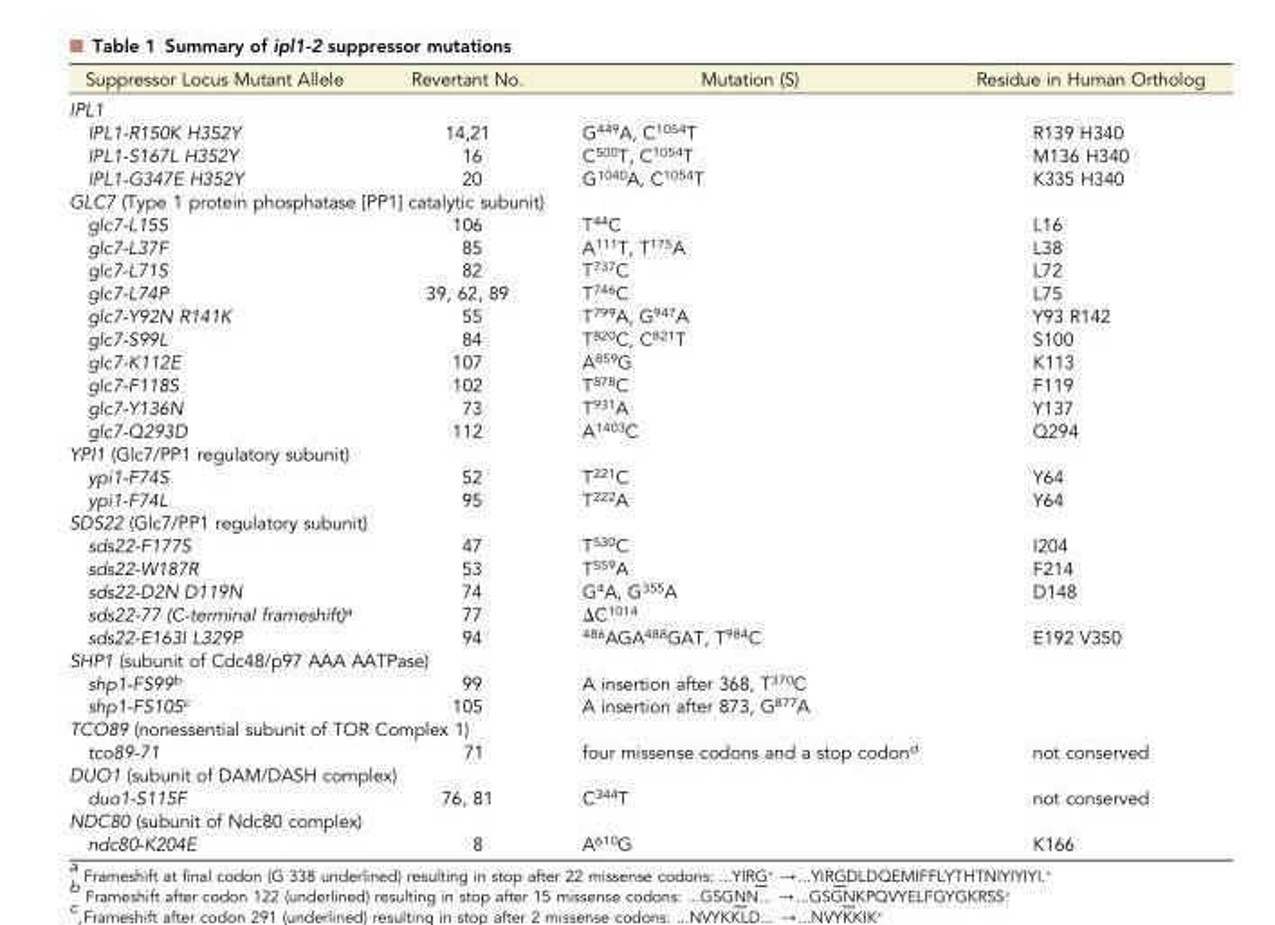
<table><thead><tr><td>Suppressor Locus Mutant Allele</td><td>Revertant No.</td><td>Mutation (S)</td><td>Residue in Human Ortholog</td></tr></thead><tbody><tr><td colspan="4">IPL1</td></tr><tr><td>IPL1-R150K H352Y</td><td>14,21</td><td>G<sup>449</sup>A, C<sup>1054</sup>T</td><td>R139 H340</td></tr><tr><td>IPL1-S167L H352Y</td><td>16</td><td>C<sup>500</sup>T, C<sup>1054</sup>T</td><td>M136 H340</td></tr><tr><td>IPL1-G347E H352Y</td><td>20</td><td>G<sup>1040</sup>A, C<sup>1054</sup>T</td><td>K335 H340</td></tr><tr><td colspan="4">GLC7 (Type 1 protein phosphatase [PP1] catalytic subunit)</td></tr><tr><td>glc7-L15S</td><td>106</td><td>T<sup>44</sup>C</td><td>L16</td></tr><tr><td>glc7-L37F</td><td>85</td><td>A<sup>111</sup>T, T<sup>175</sup>A</td><td>L38</td></tr><tr><td>glc7-L71S</td><td>82</td><td>T<sup>737</sup>C</td><td>L72</td></tr><tr><td>glc7-L74P</td><td>39, 62, 89</td><td>T<sup>746</sup>C</td><td>L75</td></tr><tr><td>glc7-Y92N R141K</td><td>55</td><td>T<sup>799</sup>A, G<sup>947</sup>A</td><td>Y93 R142</td></tr><tr><td>glc7-S99L</td><td>84</td><td>T<sup>820</sup>C, C<sup>821</sup>T</td><td>S100</td></tr><tr><td>glc7-K112E</td><td>107</td><td>A<sup>859</sup>G</td><td>K113</td></tr><tr><td>glc7-F118S</td><td>102</td><td>T<sup>878</sup>C</td><td>F119</td></tr><tr><td>glc7-Y136N</td><td>73</td><td>T<sup>931</sup>A</td><td>Y137</td></tr><tr><td>glc7-Q293D</td><td>112</td><td>A<sup>1403</sup>C</td><td>Q294</td></tr><tr><td colspan="4">YPI1 (Glc7/PP1 regulatory subunit)</td></tr><tr><td>ypi1-F74S</td><td>52</td><td>T<sup>221</sup>C</td><td>Y64</td></tr><tr><td>ypi1-F74L</td><td>95</td><td>T<sup>222</sup>A</td><td>Y64</td></tr><tr><td colspan="4">SDS22 (Glc7/PP1 regulatory subunit)</td></tr><tr><td>sds22-F177S</td><td>47</td><td>T<sup>530</sup>C</td><td>I204</td></tr><tr><td>sds22-W187R</td><td>53</td><td>T<sup>559</sup>A</td><td>F214</td></tr><tr><td>sds22-D2N D119N</td><td>74</td><td>G<sup>4</sup>A, G<sup>355</sup>A</td><td>D148</td></tr><tr><td>sds22-77 (C-terminal frameshift)<sup>a</sup></td><td>77</td><td>ΔC<sup>1014</sup></td><td></td></tr><tr><td>sds22-E163I L329P</td><td>94</td><td><sup>486</sup>AGA<sup>488</sup>GAT, T<sup>984</sup>C</td><td>E192 V350</td></tr><tr><td colspan="4">SHP1 (subunit of Cdc48/p97 AAA AATPase)</td></tr><tr><td>shp1-FS99<sup>b</sup></td><td>99</td><td>A insertion after 368, T<sup>370</sup>C</td><td></td></tr><tr><td>shp1-FS105<sup>c</sup></td><td>105</td><td>A insertion after 873, G<sup>877</sup>A</td><td></td></tr><tr><td colspan="4">TCO89 (nonessential subunit of TOR Complex 1)</td></tr><tr><td>tco89-71</td><td>71</td><td>four missense codons and a stop codon<sup>d</sup></td><td>not conserved</td></tr><tr><td colspan="4">DUO1 (subunit of DAM/DASH complex)</td></tr><tr><td>duo1-S115F</td><td>76, 81</td><td>C<sup>344</sup>T</td><td>not conserved</td></tr><tr><td colspan="4">NDC80 (subunit of Ndc80 complex)</td></tr><tr><td>ndc80-K204E</td><td>8</td><td>A<sup>610</sup>G</td><td>K166</td></tr></tbody></table>